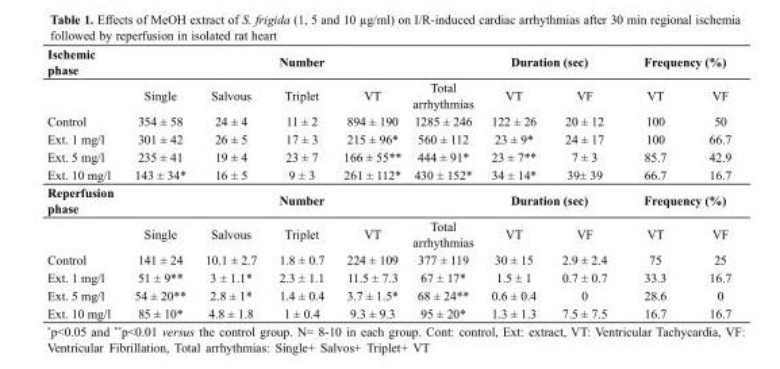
<table><thead><tr><td rowspan="2">Ischemic phase</td><td colspan="5">Number</td><td colspan="2">Duration (sec)</td><td colspan="2">Frequency (%)</td></tr><tr><td>Single</td><td>Salvous</td><td>Triplet</td><td>VT</td><td>Total arrhythmias</td><td>VT</td><td>VF</td><td>VT</td><td>VF</td></tr></thead><tbody><tr><td>Control</td><td>354 ± 58</td><td>24 ± 4</td><td>11 ± 2</td><td>894 ± 190</td><td>1285 ± 246</td><td>122 ± 26</td><td>20 ± 12</td><td>100</td><td>50</td></tr><tr><td>Ext. 1 mg/l</td><td>301 ± 42</td><td>26 ± 5</td><td>17 ± 3</td><td>215 ± 96*</td><td>560 ± 112</td><td>23 ± 9*</td><td>24 ± 17</td><td>100</td><td>66.7</td></tr><tr><td>Ext. 5 mg/l</td><td>235 ± 41</td><td>19 ± 4</td><td>23 ± 7</td><td>166 ± 55**</td><td>444 ± 91*</td><td>23 ± 7**</td><td>7 ± 3</td><td>85.7</td><td>42.9</td></tr><tr><td>Ext. 10 mg/l</td><td>143 ± 34*</td><td>16 ± 5</td><td>9 ± 3</td><td>261 ± 112*</td><td>430 ± 152*</td><td>34 ± 14*</td><td>39± 39</td><td>66.7</td><td>16.7</td></tr><tr><td rowspan="2">Reperfusion phase</td><td colspan="5">Number</td><td colspan="2">Duration (sec)</td><td colspan="2">Frequency (%)</td></tr><tr><td>Single</td><td>Salvous</td><td>Triplet</td><td>VT</td><td>Total arrhythmias</td><td>VT</td><td>VF</td><td>VT</td><td>VF</td></tr><tr><td>Control</td><td>141 ± 24</td><td>10.1 ± 2.7</td><td>1.8 ± 0.7</td><td>224 ± 109</td><td>377 ± 119</td><td>30 ± 15</td><td>2.9 ± 2.4</td><td>75</td><td>25</td></tr><tr><td>Ext. 1 mg/l</td><td>51 ± 9**</td><td>3 ± 1.1*</td><td>2.3 ± 1.1</td><td>11.5 ± 7.3</td><td>67 ± 17*</td><td>1.5 ± 1</td><td>0.7 ± 0.7</td><td>33.3</td><td>16.7</td></tr><tr><td>Ext. 5 mg/l</td><td>54 ± 20**</td><td>2.8 ± 1*</td><td>1.4 ± 0.4</td><td>3.7 ± 1.5*</td><td>68 ± 24**</td><td>0.6 ± 0.4</td><td>0</td><td>28.6</td><td>0</td></tr><tr><td>Ext. 10 mg/l</td><td>85 ± 10*</td><td>4.8 ± 1.8</td><td>1 ± 0.4</td><td>9.3 ± 9.3</td><td>95 ± 20*</td><td>1.3 ± 1.3</td><td>7.5 ± 7.5</td><td>16.7</td><td>16.7</td></tr></tbody></table>